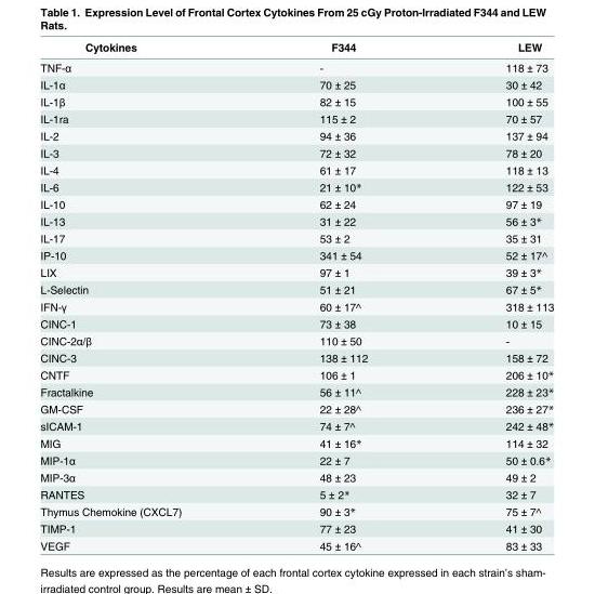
<table><thead><tr><td>Cytokines</td><td>F344</td><td>LEW</td></tr></thead><tbody><tr><td>TNF-α</td><td>-</td><td>118 ± 73</td></tr><tr><td>IL-1α</td><td>70 ± 25</td><td>30 ± 42</td></tr><tr><td>IL-1β</td><td>82 ± 15</td><td>100 ± 55</td></tr><tr><td>IL-1ra</td><td>115 ± 2</td><td>70 ± 57</td></tr><tr><td>IL-2</td><td>94 ± 36</td><td>137 ± 94</td></tr><tr><td>IL-3</td><td>72 ± 32</td><td>78 ± 20</td></tr><tr><td>IL-4</td><td>61 ± 17</td><td>118 ± 13</td></tr><tr><td>IL-6</td><td>21 ± 10*</td><td>122 ± 53</td></tr><tr><td>IL-10</td><td>62 ± 24</td><td>97 ± 19</td></tr><tr><td>IL-13</td><td>31 ± 22</td><td>56 ± 3*</td></tr><tr><td>IL-17</td><td>53 ± 2</td><td>35 ± 31</td></tr><tr><td>IP-10</td><td>341 ± 54</td><td>52 ± 17^</td></tr><tr><td>LIX</td><td>97 ± 1</td><td>39 ± 3*</td></tr><tr><td>L-Selectin</td><td>51 ± 21</td><td>67 ± 5*</td></tr><tr><td>IFN-γ</td><td>60 ± 17^</td><td>318 ± 113</td></tr><tr><td>CINC-1</td><td>73 ± 38</td><td>10 ± 15</td></tr><tr><td>CINC-2α/β</td><td>110 ± 50</td><td>-</td></tr><tr><td>CINC-3</td><td>138 ± 112</td><td>158 ± 72</td></tr><tr><td>CNTF</td><td>106 ± 1</td><td>206 ± 10*</td></tr><tr><td>Fractalkine</td><td>56 ± 11^</td><td>228 ± 23*</td></tr><tr><td>GM-CSF</td><td>22 ± 28^</td><td>236 ± 27*</td></tr><tr><td>sICAM-1</td><td>74 ± 7^</td><td>242 ± 48*</td></tr><tr><td>MIG</td><td>41 ± 16*</td><td>114 ± 32</td></tr><tr><td>MIP-1α</td><td>22 ± 7</td><td>50 ± 0.6*</td></tr><tr><td>MIP-3α</td><td>48 ± 23</td><td>49 ± 2</td></tr><tr><td>RANTES</td><td>5 ± 2*</td><td>32 ± 7</td></tr><tr><td>Thymus Chemokine (CXCL7)</td><td>90 ± 3*</td><td>75 ± 7^</td></tr><tr><td>TIMP-1</td><td>77 ± 23</td><td>41 ± 30</td></tr><tr><td>VEGF</td><td>45 ± 16^</td><td>83 ± 33</td></tr></tbody></table>